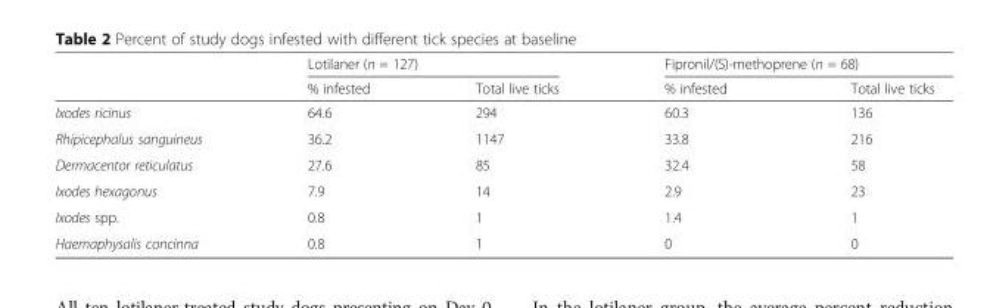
<table><thead><tr><td rowspan="2"></td><td colspan="2">Lotilaner (n = 127)</td><td colspan="2">Fipronil/(S)-methoprene (n = 68)</td></tr><tr><td>% infested</td><td>Total live ticks</td><td>% infested</td><td>Total live ticks</td></tr></thead><tbody><tr><td>Ixodes ricinus</td><td>64.6</td><td>294</td><td>60.3</td><td>136</td></tr><tr><td>Rhipicephalus sanguineus</td><td>36.2</td><td>1147</td><td>33.8</td><td>216</td></tr><tr><td>Dermacentor reticulatus</td><td>27.6</td><td>85</td><td>32.4</td><td>58</td></tr><tr><td>Ixodes hexagonus</td><td>7.9</td><td>14</td><td>2.9</td><td>23</td></tr><tr><td>Ixodes spp.</td><td>0.8</td><td>1</td><td>1.4</td><td>1</td></tr><tr><td>Haemaphysalis concinna</td><td>0.8</td><td>1</td><td>0</td><td>0</td></tr></tbody></table>